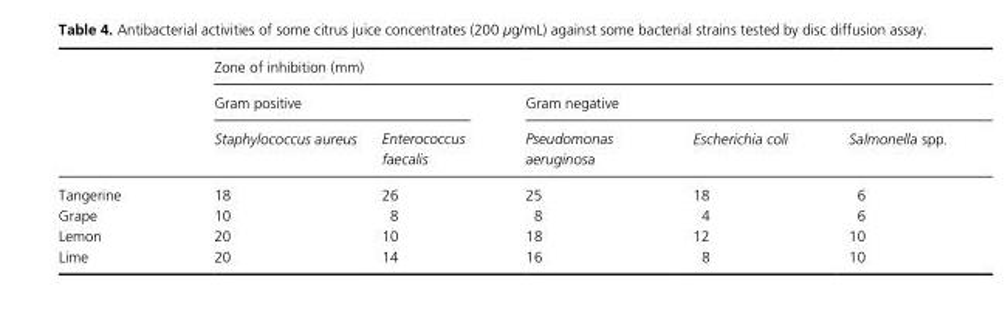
<table><thead><tr><td rowspan="3"></td><td colspan="5">Zone of inhibition (mm)</td></tr><tr><td colspan="2">Gram positive</td><td colspan="3">Gram negative</td></tr><tr><td>Staphylococcus aureus</td><td>Enterococcus faecalis</td><td>Pseudomonas aeruginosa</td><td>Escherichia coli</td><td>Salmonella spp.</td></tr></thead><tbody><tr><td>Tangerine</td><td>18</td><td>26</td><td>25</td><td>18</td><td>6</td></tr><tr><td>Grape</td><td>10</td><td>8</td><td>8</td><td>4</td><td>6</td></tr><tr><td>Lemon</td><td>20</td><td>10</td><td>18</td><td>12</td><td>10</td></tr><tr><td>Lime</td><td>20</td><td>14</td><td>16</td><td>8</td><td>10</td></tr></tbody></table>